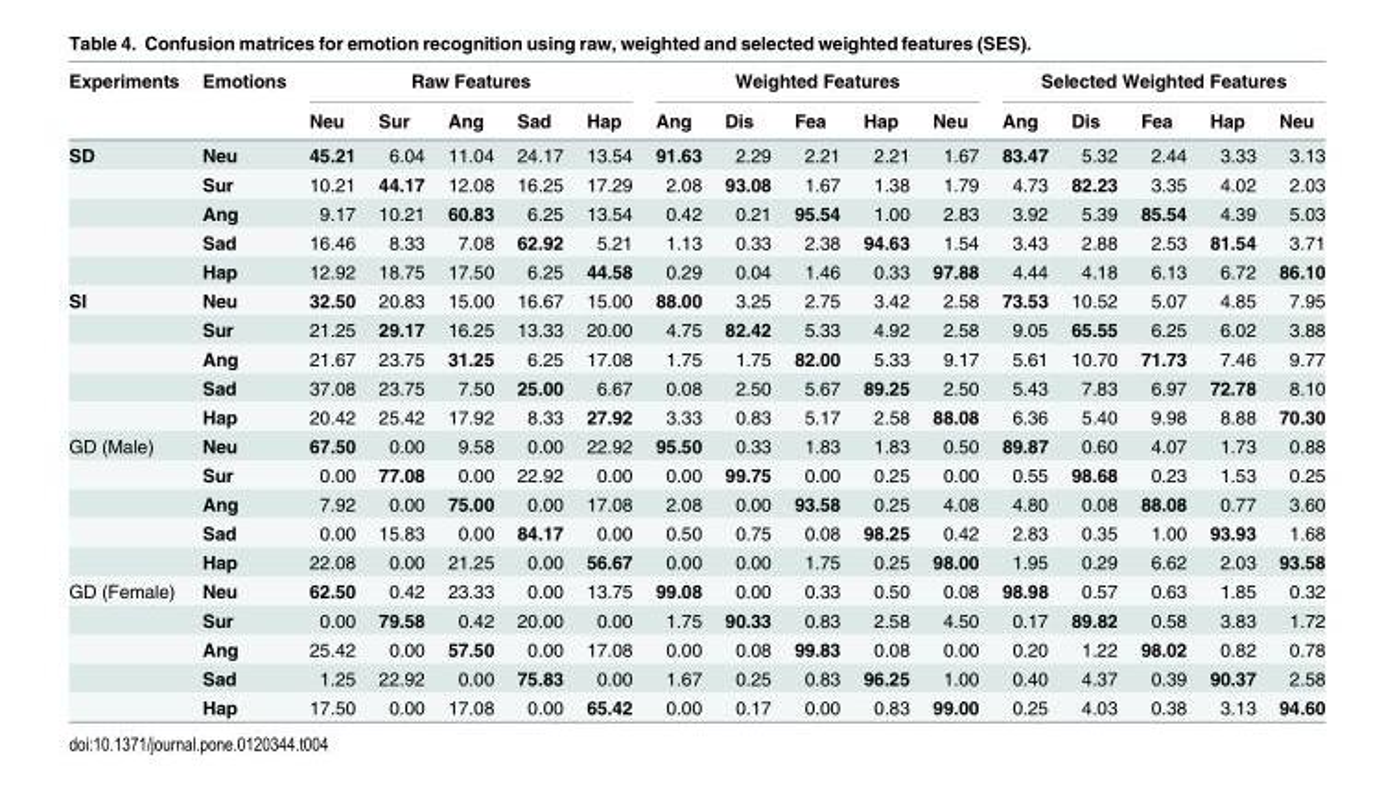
<table><thead><tr><td rowspan="2">Experiments</td><td rowspan="2">Emotions</td><td colspan="5">Raw Features</td><td colspan="5">Weighted Features</td><td colspan="5">Selected Weighted Features</td></tr><tr><td>Neu</td><td>Sur</td><td>Ang</td><td>Sad</td><td>Hap</td><td>Ang</td><td>Dis</td><td>Fea</td><td>Hap</td><td>Neu</td><td>Ang</td><td>Dis</td><td>Fea</td><td>Hap</td><td>Neu</td></tr></thead><tbody><tr><td rowspan="5">SD</td><td>Neu</td><td>45.21</td><td>6.04</td><td>11.04</td><td>24.17</td><td>13.54</td><td>91.63</td><td>2.29</td><td>2.21</td><td>2.21</td><td>1.67</td><td>83.47</td><td>5.32</td><td>2.44</td><td>3.33</td><td>3.13</td></tr><tr><td>Sur</td><td>10.21</td><td>44.17</td><td>12.08</td><td>16.25</td><td>17.29</td><td>2.08</td><td>93.08</td><td>1.67</td><td>1.38</td><td>1.79</td><td>4.73</td><td>82.23</td><td>3.35</td><td>4.02</td><td>2.03</td></tr><tr><td>Ang</td><td>9.17</td><td>10.21</td><td>60.83</td><td>6.25</td><td>13.54</td><td>0.42</td><td>0.21</td><td>95.54</td><td>1.00</td><td>2.83</td><td>3.92</td><td>5.39</td><td>85.54</td><td>4.39</td><td>5.03</td></tr><tr><td>Sad</td><td>16.46</td><td>8.33</td><td>7.08</td><td>62.92</td><td>5.21</td><td>1.13</td><td>0.33</td><td>2.38</td><td>94.63</td><td>1.54</td><td>3.43</td><td>2.88</td><td>2.53</td><td>81.54</td><td>3.71</td></tr><tr><td>Hap</td><td>12.92</td><td>18.75</td><td>17.50</td><td>6.25</td><td>44.58</td><td>0.29</td><td>0.04</td><td>1.46</td><td>0.33</td><td>97.88</td><td>4.44</td><td>4.18</td><td>6.13</td><td>6.72</td><td>86.10</td></tr><tr><td rowspan="5">SI</td><td>Neu</td><td>32.50</td><td>20.83</td><td>15.00</td><td>16.67</td><td>15.00</td><td>88.00</td><td>3.25</td><td>2.75</td><td>3.42</td><td>2.58</td><td>73.53</td><td>10.52</td><td>5.07</td><td>4.85</td><td>7.95</td></tr><tr><td>Sur</td><td>21.25</td><td>29.17</td><td>16.25</td><td>13.33</td><td>20.00</td><td>4.75</td><td>82.42</td><td>5.33</td><td>4.92</td><td>2.58</td><td>9.05</td><td>65.55</td><td>6.25</td><td>6.02</td><td>3.88</td></tr><tr><td>Ang</td><td>21.67</td><td>23.75</td><td>31.25</td><td>6.25</td><td>17.08</td><td>1.75</td><td>1.75</td><td>82.00</td><td>5.33</td><td>9.17</td><td>5.61</td><td>10.70</td><td>71.73</td><td>7.46</td><td>9.77</td></tr><tr><td>Sad</td><td>37.08</td><td>23.75</td><td>7.50</td><td>25.00</td><td>6.67</td><td>0.08</td><td>2.50</td><td>5.67</td><td>89.25</td><td>2.50</td><td>5.43</td><td>7.83</td><td>6.97</td><td>72.78</td><td>8.10</td></tr><tr><td>Hap</td><td>20.42</td><td>25.42</td><td>17.92</td><td>8.33</td><td>27.92</td><td>3.33</td><td>0.83</td><td>5.17</td><td>2.58</td><td>88.08</td><td>6.36</td><td>5.40</td><td>9.98</td><td>8.88</td><td>70.30</td></tr><tr><td rowspan="5">GD (Male)</td><td>Neu</td><td>67.50</td><td>0.00</td><td>9.58</td><td>0.00</td><td>22.92</td><td>95.50</td><td>0.33</td><td>1.83</td><td>1.83</td><td>0.50</td><td>89.87</td><td>0.60</td><td>4.07</td><td>1.73</td><td>0.88</td></tr><tr><td>Sur</td><td>0.00</td><td>77.08</td><td>0.00</td><td>22.92</td><td>0.00</td><td>0.00</td><td>99.75</td><td>0.00</td><td>0.25</td><td>0.00</td><td>0.55</td><td>98.68</td><td>0.23</td><td>1.53</td><td>0.25</td></tr><tr><td>Ang</td><td>7.92</td><td>0.00</td><td>75.00</td><td>0.00</td><td>17.08</td><td>2.08</td><td>0.00</td><td>93.58</td><td>0.25</td><td>4.08</td><td>4.80</td><td>0.08</td><td>88.08</td><td>0.77</td><td>3.60</td></tr><tr><td>Sad</td><td>0.00</td><td>15.83</td><td>0.00</td><td>84.17</td><td>0.00</td><td>0.50</td><td>0.75</td><td>0.08</td><td>98.25</td><td>0.42</td><td>2.83</td><td>0.35</td><td>1.00</td><td>93.93</td><td>1.68</td></tr><tr><td>Hap</td><td>22.08</td><td>0.00</td><td>21.25</td><td>0.00</td><td>56.67</td><td>0.00</td><td>0.00</td><td>1.75</td><td>0.25</td><td>98.00</td><td>1.95</td><td>0.29</td><td>6.62</td><td>2.03</td><td>93.58</td></tr><tr><td rowspan="5">GD (Female)</td><td>Neu</td><td>62.50</td><td>0.42</td><td>23.33</td><td>0.00</td><td>13.75</td><td>99.08</td><td>0.00</td><td>0.33</td><td>0.50</td><td>0.08</td><td>98.98</td><td>0.57</td><td>0.63</td><td>1.85</td><td>0.32</td></tr><tr><td>Sur</td><td>0.00</td><td>79.58</td><td>0.42</td><td>20.00</td><td>0.00</td><td>1.75</td><td>90.33</td><td>0.83</td><td>2.58</td><td>4.50</td><td>0.17</td><td>89.82</td><td>0.58</td><td>3.83</td><td>1.72</td></tr><tr><td>Ang</td><td>25.42</td><td>0.00</td><td>57.50</td><td>0.00</td><td>17.08</td><td>0.00</td><td>0.08</td><td>99.83</td><td>0.08</td><td>0.00</td><td>0.20</td><td>1.22</td><td>98.02</td><td>0.82</td><td>0.78</td></tr><tr><td>Sad</td><td>1.25</td><td>22.92</td><td>0.00</td><td>75.83</td><td>0.00</td><td>1.67</td><td>0.25</td><td>0.83</td><td>96.25</td><td>1.00</td><td>0.40</td><td>4.37</td><td>0.39</td><td>90.37</td><td>2.58</td></tr><tr><td>Hap</td><td>17.50</td><td>0.00</td><td>17.08</td><td>0.00</td><td>65.42</td><td>0.00</td><td>0.17</td><td>0.00</td><td>0.83</td><td>99.00</td><td>0.25</td><td>4.03</td><td>0.38</td><td>3.13</td><td>94.60</td></tr></tbody></table>